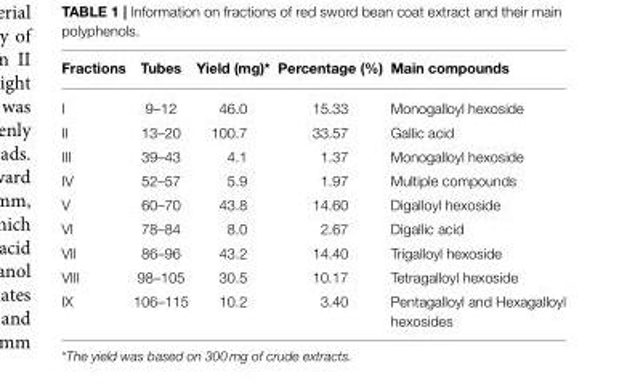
<table><thead><tr><td>Fractions</td><td>Tubes</td><td>Yield (mg)*</td><td>Percentage (%)</td><td>Main compounds</td></tr></thead><tbody><tr><td>I</td><td>9–12</td><td>46.0</td><td>15.33</td><td>Monogalloyl hexoside</td></tr><tr><td>II</td><td>13–20</td><td>100.7</td><td>33.57</td><td>Gallic acid</td></tr><tr><td>III</td><td>39–43</td><td>4.1</td><td>1.37</td><td>Monogalloyl hexoside</td></tr><tr><td>IV</td><td>52–57</td><td>5.9</td><td>1.97</td><td>Multiple compounds</td></tr><tr><td>V</td><td>60–70</td><td>43.8</td><td>14.60</td><td>Digalloyl hexoside</td></tr><tr><td>VI</td><td>78–84</td><td>8.0</td><td>2.67</td><td>Digallic acid</td></tr><tr><td>VII</td><td>86–96</td><td>43.2</td><td>14.40</td><td>Trigalloyl hexoside</td></tr><tr><td>VIII</td><td>98–105</td><td>30.5</td><td>10.17</td><td>Tetragalloyl hexoside</td></tr><tr><td>IX</td><td>106–115</td><td>10.2</td><td>3.40</td><td>Pentagalloyl and Hexagalloyl hexosides</td></tr></tbody></table>